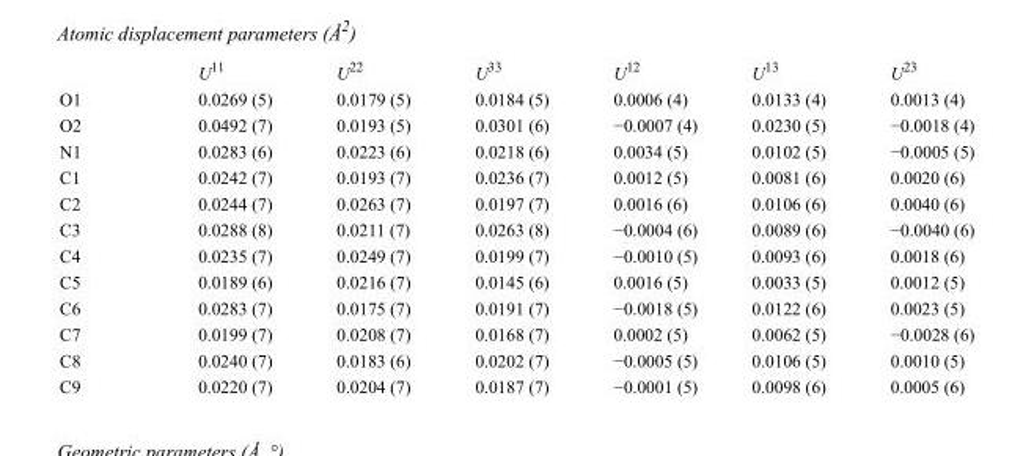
<table><thead><tr><td></td><td>U<sup>11</sup></td><td>U<sup>22</sup></td><td>U<sup>33</sup></td><td>U<sup>12</sup></td><td>U<sup>13</sup></td><td>U<sup>23</sup></td></tr></thead><tbody><tr><td>O1</td><td>0.0269 (5)</td><td>0.0179 (5)</td><td>0.0184 (5)</td><td>0.0006 (4)</td><td>0.0133 (4)</td><td>0.0013 (4)</td></tr><tr><td>O2</td><td>0.0492 (7)</td><td>0.0193 (5)</td><td>0.0301 (6)</td><td>−0.0007 (4)</td><td>0.0230 (5)</td><td>−0.0018 (4)</td></tr><tr><td>N1</td><td>0.0283 (6)</td><td>0.0223 (6)</td><td>0.0218 (6)</td><td>0.0034 (5)</td><td>0.0102 (5)</td><td>−0.0005 (5)</td></tr><tr><td>C1</td><td>0.0242 (7)</td><td>0.0193 (7)</td><td>0.0236 (7)</td><td>0.0012 (5)</td><td>0.0081 (6)</td><td>0.0020 (6)</td></tr><tr><td>C2</td><td>0.0244 (7)</td><td>0.0263 (7)</td><td>0.0197 (7)</td><td>0.0016 (6)</td><td>0.0106 (6)</td><td>0.0040 (6)</td></tr><tr><td>C3</td><td>0.0288 (8)</td><td>0.0211 (7)</td><td>0.0263 (8)</td><td>−0.0004 (6)</td><td>0.0089 (6)</td><td>−0.0040 (6)</td></tr><tr><td>C4</td><td>0.0235 (7)</td><td>0.0249 (7)</td><td>0.0199 (7)</td><td>−0.0010 (5)</td><td>0.0093 (6)</td><td>0.0018 (6)</td></tr><tr><td>C5</td><td>0.0189 (6)</td><td>0.0216 (7)</td><td>0.0145 (6)</td><td>0.0016 (5)</td><td>0.0033 (5)</td><td>0.0012 (5)</td></tr><tr><td>C6</td><td>0.0283 (7)</td><td>0.0175 (7)</td><td>0.0191 (7)</td><td>−0.0018 (5)</td><td>0.0122 (6)</td><td>0.0023 (5)</td></tr><tr><td>C7</td><td>0.0199 (7)</td><td>0.0208 (7)</td><td>0.0168 (7)</td><td>0.0002 (5)</td><td>0.0062 (5)</td><td>−0.0028 (6)</td></tr><tr><td>C8</td><td>0.0240 (7)</td><td>0.0183 (6)</td><td>0.0202 (7)</td><td>−0.0005 (5)</td><td>0.0106 (5)</td><td>0.0010 (5)</td></tr><tr><td>C9</td><td>0.0220 (7)</td><td>0.0204 (7)</td><td>0.0187 (7)</td><td>−0.0001 (5)</td><td>0.0098 (6)</td><td>0.0005 (6)</td></tr></tbody></table>